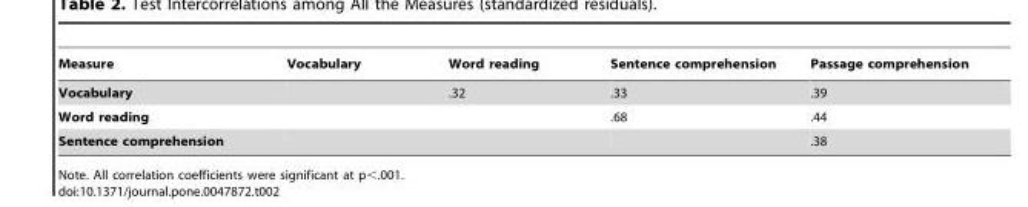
<table><thead><tr><td>Measure</td><td>Vocabulary</td><td>Word reading</td><td>Sentence comprehension</td><td>Passage comprehension</td></tr></thead><tbody><tr><td>Vocabulary</td><td></td><td>.32</td><td>.33</td><td>.39</td></tr><tr><td>Word reading</td><td></td><td></td><td>.68</td><td>.44</td></tr><tr><td>Sentence comprehension</td><td></td><td></td><td></td><td>.38</td></tr></tbody></table>